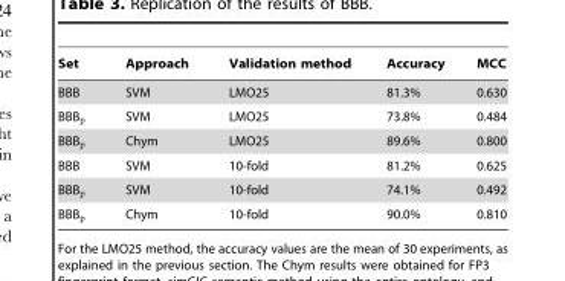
<table><thead><tr><td>Set</td><td>Approach</td><td>Validation method</td><td>Accuracy</td><td>MCC</td></tr></thead><tbody><tr><td>BBB</td><td>SVM</td><td>LMO25</td><td>81.3%</td><td>0.630</td></tr><tr><td>BBBp</td><td>SVM</td><td>LMO25</td><td>73.8%</td><td>0.484</td></tr><tr><td>BBBp</td><td>Chym</td><td>LMO25</td><td>89.6%</td><td>0.800</td></tr><tr><td>BBB</td><td>SVM</td><td>10-fold</td><td>81.2%</td><td>0.625</td></tr><tr><td>BBBp</td><td>SVM</td><td>10-fold</td><td>74.1%</td><td>0.492</td></tr><tr><td>BBBp</td><td>Chym</td><td>10-fold</td><td>90.0%</td><td>0.810</td></tr></tbody></table>